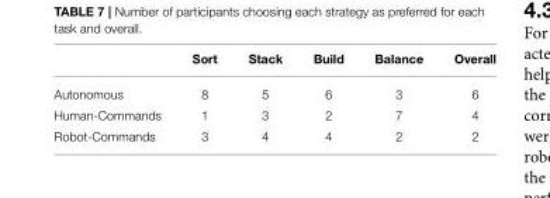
<table><thead><tr><td></td><td>Sort</td><td>Stack</td><td>Build</td><td>Balance</td><td>Overall</td></tr></thead><tbody><tr><td>Autonomous</td><td>8</td><td>5</td><td>6</td><td>3</td><td>6</td></tr><tr><td>Human-Commands</td><td>1</td><td>3</td><td>2</td><td>7</td><td>4</td></tr><tr><td>Robot-Commands</td><td>3</td><td>4</td><td>4</td><td>2</td><td>2</td></tr></tbody></table>